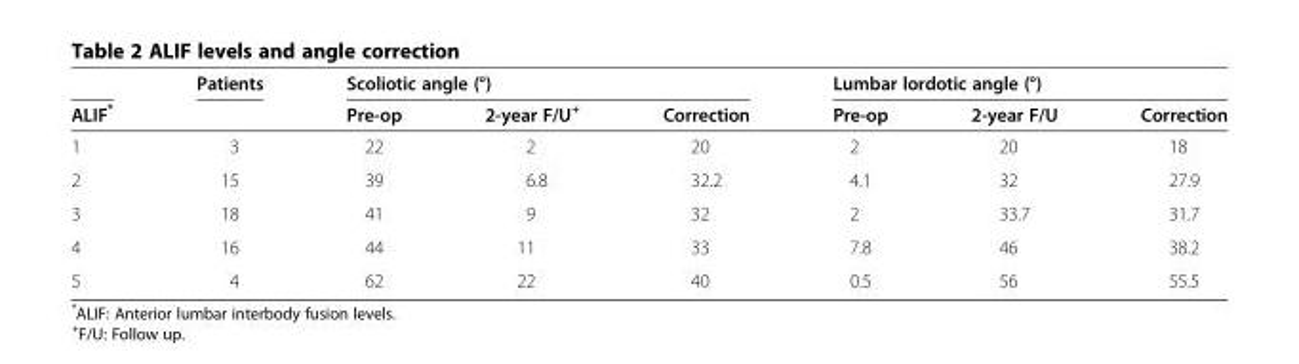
<table><thead><tr><td rowspan="2">ALIF*</td><td rowspan="2">Patients</td><td colspan="3">Scoliotic angle (°)</td><td colspan="3">Lumbar lordotic angle (°)</td></tr><tr><td>Pre-op</td><td>2-year F/U<sup>+</sup></td><td>Correction</td><td>Pre-op</td><td>2-year F/U</td><td>Correction</td></tr></thead><tbody><tr><td>1</td><td>3</td><td>22</td><td>2</td><td>20</td><td>2</td><td>20</td><td>18</td></tr><tr><td>2</td><td>15</td><td>39</td><td>6.8</td><td>32.2</td><td>4.1</td><td>32</td><td>27.9</td></tr><tr><td>3</td><td>18</td><td>41</td><td>9</td><td>32</td><td>2</td><td>33.7</td><td>31.7</td></tr><tr><td>4</td><td>16</td><td>44</td><td>11</td><td>33</td><td>7.8</td><td>46</td><td>38.2</td></tr><tr><td>5</td><td>4</td><td>62</td><td>22</td><td>40</td><td>0.5</td><td>56</td><td>55.5</td></tr></tbody></table>